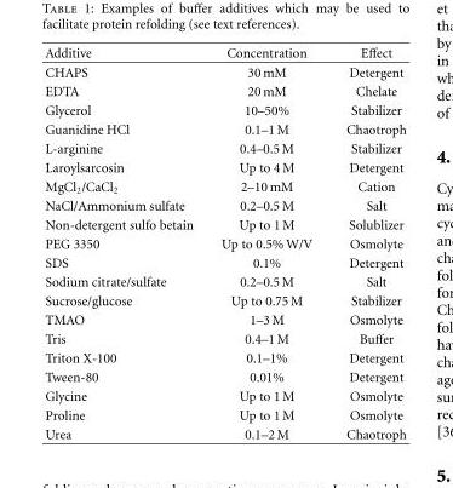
<table><thead><tr><td>Additive</td><td>Concentration</td><td>Effect</td></tr></thead><tbody><tr><td>CHAPS</td><td>30 mM</td><td>Detergent</td></tr><tr><td>EDTA</td><td>20 mM</td><td>Chelate</td></tr><tr><td>Glycerol</td><td>10–50%</td><td>Stabilizer</td></tr><tr><td>Guanidine HCl</td><td>0.1–1 M</td><td>Chaotroph</td></tr><tr><td>L-arginine</td><td>0.4–0.5 M</td><td>Stabilizer</td></tr><tr><td>Laroylsarcosin</td><td>Up to 4 M</td><td>Detergent</td></tr><tr><td>MgCl<sub>2</sub>/CaCl<sub>2</sub></td><td>2–10 mM</td><td>Cation</td></tr><tr><td>NaCl/Ammonium sulfate</td><td>0.2–0.5 M</td><td>Salt</td></tr><tr><td>Non-detergent sulfo betain</td><td>Up to 1 M</td><td>Solublizer</td></tr><tr><td>PEG 3350</td><td>Up to 0.5% W/V</td><td>Osmolyte</td></tr><tr><td>SDS</td><td>0.1%</td><td>Detergent</td></tr><tr><td>Sodium citrate/sulfate</td><td>0.2–0.5 M</td><td>Salt</td></tr><tr><td>Sucrose/glucose</td><td>Up to 0.75 M</td><td>Stabilizer</td></tr><tr><td>TMAO</td><td>1–3 M</td><td>Osmolyte</td></tr><tr><td>Tris</td><td>0.4–1 M</td><td>Buffer</td></tr><tr><td>Triton X-100</td><td>0.1–1%</td><td>Detergent</td></tr><tr><td>Tween-80</td><td>0.01%</td><td>Detergent</td></tr><tr><td>Glycine</td><td>Up to 1 M</td><td>Osmolyte</td></tr><tr><td>Proline</td><td>Up to 1 M</td><td>Osmolyte</td></tr><tr><td>Urea</td><td>0.1–2 M</td><td>Chaotroph</td></tr></tbody></table>